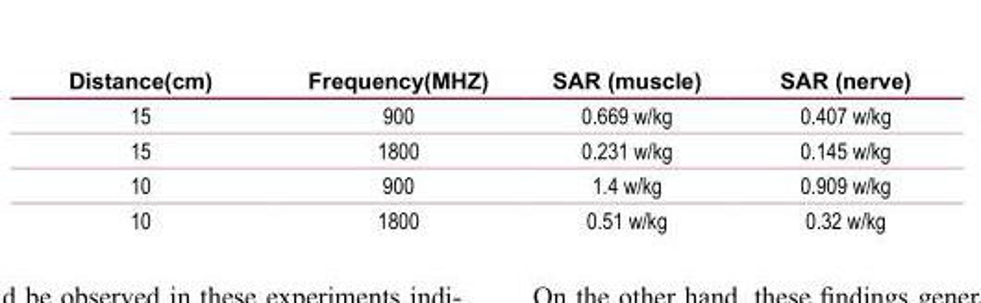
<table><thead><tr><td>Distance(cm)</td><td>Frequency(MHZ)</td><td>SAR (muscle)</td><td>SAR (nerve)</td></tr></thead><tbody><tr><td>15</td><td>900</td><td>0.669 w/kg</td><td>0.407 w/kg</td></tr><tr><td>15</td><td>1800</td><td>0.231 w/kg</td><td>0.145 w/kg</td></tr><tr><td>10</td><td>900</td><td>1.4 w/kg</td><td>0.909 w/kg</td></tr><tr><td>10</td><td>1800</td><td>0.51 w/kg</td><td>0.32 w/kg</td></tr></tbody></table>